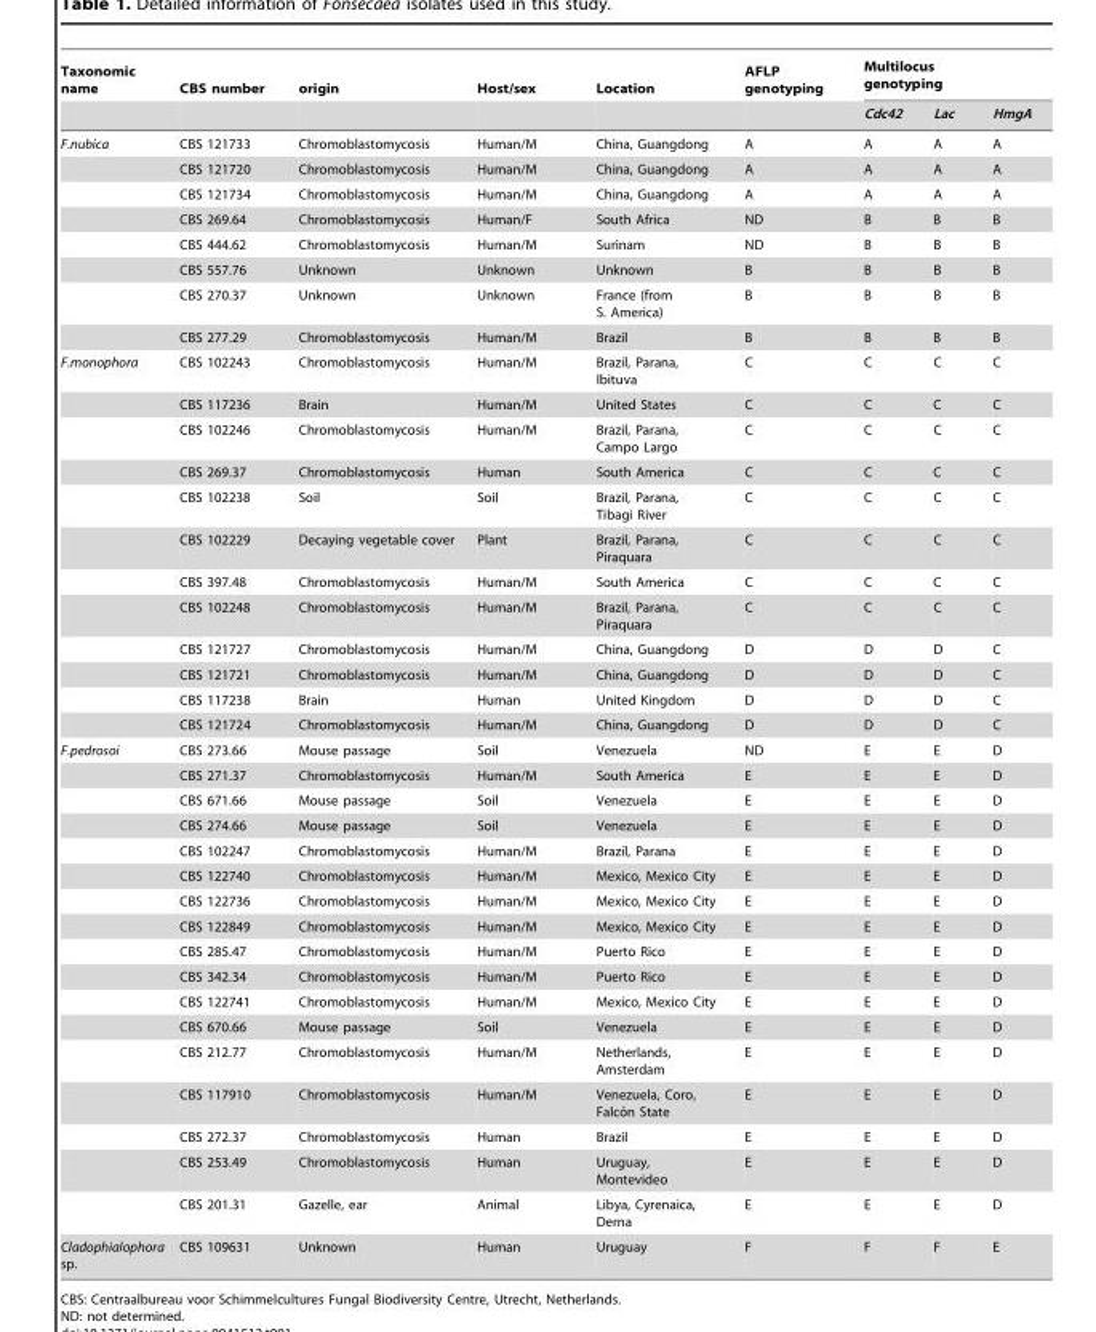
<table><thead><tr><td rowspan="2">Taxonomic name</td><td rowspan="2">CBS number</td><td rowspan="2">origin</td><td rowspan="2">Host/sex</td><td rowspan="2">Location</td><td rowspan="2">AFLP genotyping</td><td colspan="3">Multilocus genotyping</td></tr><tr><td>Cdc42</td><td>Lac</td><td>HmgA</td></tr></thead><tbody><tr><td rowspan="8">F.nubica</td><td>CBS 121733</td><td>Chromoblastomycosis</td><td>Human/M</td><td>China, Guangdong</td><td>A</td><td>A</td><td>A</td><td>A</td></tr><tr><td>CBS 121720</td><td>Chromoblastomycosis</td><td>Human/M</td><td>China, Guangdong</td><td>A</td><td>A</td><td>A</td><td>A</td></tr><tr><td>CBS 121734</td><td>Chromoblastomycosis</td><td>Human/M</td><td>China, Guangdong</td><td>A</td><td>A</td><td>A</td><td>A</td></tr><tr><td>CBS 269.64</td><td>Chromoblastomycosis</td><td>Human/F</td><td>South Africa</td><td>ND</td><td>B</td><td>B</td><td>B</td></tr><tr><td>CBS 444.62</td><td>Chromoblastomycosis</td><td>Human/M</td><td>Surinam</td><td>ND</td><td>B</td><td>B</td><td>B</td></tr><tr><td>CBS 557.76</td><td>Unknown</td><td>Unknown</td><td>Unknown</td><td>B</td><td>B</td><td>B</td><td>B</td></tr><tr><td>CBS 270.37</td><td>Unknown</td><td>Unknown</td><td>France (from S. America)</td><td>B</td><td>B</td><td>B</td><td>B</td></tr><tr><td>CBS 277.29</td><td>Chromoblastomycosis</td><td>Human/M</td><td>Brazil</td><td>B</td><td>B</td><td>B</td><td>B</td></tr><tr><td rowspan="12">F.monophora</td><td>CBS 102243</td><td>Chromoblastomycosis</td><td>Human/M</td><td>Brazil, Parana, Ibituva</td><td>C</td><td>C</td><td>C</td><td>C</td></tr><tr><td>CBS 117236</td><td>Brain</td><td>Human/M</td><td>United States</td><td>C</td><td>C</td><td>C</td><td>C</td></tr><tr><td>CBS 102246</td><td>Chromoblastomycosis</td><td>Human/M</td><td>Brazil, Parana, Campo Largo</td><td>C</td><td>C</td><td>C</td><td>C</td></tr><tr><td>CBS 269.37</td><td>Chromoblastomycosis</td><td>Human</td><td>South America</td><td>C</td><td>C</td><td>C</td><td>C</td></tr><tr><td>CBS 102238</td><td>Soil</td><td>Soil</td><td>Brazil, Parana, Tibagi River</td><td>C</td><td>C</td><td>C</td><td>C</td></tr><tr><td>CBS 102229</td><td>Decaying vegetable cover</td><td>Plant</td><td>Brazil, Parana, Piraquara</td><td>C</td><td>C</td><td>C</td><td>C</td></tr><tr><td>CBS 397.48</td><td>Chromoblastomycosis</td><td>Human/M</td><td>South America</td><td>C</td><td>C</td><td>C</td><td>C</td></tr><tr><td>CBS 102248</td><td>Chromoblastomycosis</td><td>Human/M</td><td>Brazil, Parana, Piraquara</td><td>C</td><td>C</td><td>C</td><td>C</td></tr><tr><td>CBS 121727</td><td>Chromoblastomycosis</td><td>Human/M</td><td>China, Guangdong</td><td>D</td><td>D</td><td>D</td><td>C</td></tr><tr><td>CBS 121721</td><td>Chromoblastomycosis</td><td>Human/M</td><td>China, Guangdong</td><td>D</td><td>D</td><td>D</td><td>C</td></tr><tr><td>CBS 117238</td><td>Brain</td><td>Human</td><td>United Kingdom</td><td>D</td><td>D</td><td>D</td><td>C</td></tr><tr><td>CBS 121724</td><td>Chromoblastomycosis</td><td>Human/M</td><td>China, Guangdong</td><td>D</td><td>D</td><td>D</td><td>C</td></tr><tr><td rowspan="17">F.pedrosoi</td><td>CBS 273.66</td><td>Mouse passage</td><td>Soil</td><td>Venezuela</td><td>ND</td><td>E</td><td>E</td><td>D</td></tr><tr><td>CBS 271.37</td><td>Chromoblastomycosis</td><td>Human/M</td><td>South America</td><td>E</td><td>E</td><td>E</td><td>D</td></tr><tr><td>CBS 671.66</td><td>Mouse passage</td><td>Soil</td><td>Venezuela</td><td>E</td><td>E</td><td>E</td><td>D</td></tr><tr><td>CBS 274.66</td><td>Mouse passage</td><td>Soil</td><td>Venezuela</td><td>E</td><td>E</td><td>E</td><td>D</td></tr><tr><td>CBS 102247</td><td>Chromoblastomycosis</td><td>Human/M</td><td>Brazil, Parana</td><td>E</td><td>E</td><td>E</td><td>D</td></tr><tr><td>CBS 122740</td><td>Chromoblastomycosis</td><td>Human/M</td><td>Mexico, Mexico City</td><td>E</td><td>E</td><td>E</td><td>D</td></tr><tr><td>CBS 122736</td><td>Chromoblastomycosis</td><td>Human/M</td><td>Mexico, Mexico City</td><td>E</td><td>E</td><td>E</td><td>D</td></tr><tr><td>CBS 122849</td><td>Chromoblastomycosis</td><td>Human/M</td><td>Mexico, Mexico City</td><td>E</td><td>E</td><td>E</td><td>D</td></tr><tr><td>CBS 285.47</td><td>Chromoblastomycosis</td><td>Human/M</td><td>Puerto Rico</td><td>E</td><td>E</td><td>E</td><td>D</td></tr><tr><td>CBS 342.34</td><td>Chromoblastomycosis</td><td>Human/M</td><td>Puerto Rico</td><td>E</td><td>E</td><td>E</td><td>D</td></tr><tr><td>CBS 122741</td><td>Chromoblastomycosis</td><td>Human/M</td><td>Mexico, Mexico City</td><td>E</td><td>E</td><td>E</td><td>D</td></tr><tr><td>CBS 670.66</td><td>Mouse passage</td><td>Soil</td><td>Venezuela</td><td>E</td><td>E</td><td>E</td><td>D</td></tr><tr><td>CBS 212.77</td><td>Chromoblastomycosis</td><td>Human/M</td><td>Netherlands, Amsterdam</td><td>E</td><td>E</td><td>E</td><td>D</td></tr><tr><td>CBS 117910</td><td>Chromoblastomycosis</td><td>Human/M</td><td>Venezuela, Coro, Falco´n State</td><td>E</td><td>E</td><td>E</td><td>D</td></tr><tr><td>CBS 272.37</td><td>Chromoblastomycosis</td><td>Human</td><td>Brazil</td><td>E</td><td>E</td><td>E</td><td>D</td></tr><tr><td>CBS 253.49</td><td>Chromoblastomycosis</td><td>Human</td><td>Uruguay, Montevideo</td><td>E</td><td>E</td><td>E</td><td>D</td></tr><tr><td>CBS 201.31</td><td>Gazelle, ear</td><td>Animal</td><td>Libya, Cyrenaica, Derna</td><td>E</td><td>E</td><td>E</td><td>D</td></tr><tr><td>Cladophialophora sp.</td><td>CBS 109631</td><td>Unknown</td><td>Human</td><td>Uruguay</td><td>F</td><td>F</td><td>F</td><td>E</td></tr></tbody></table>